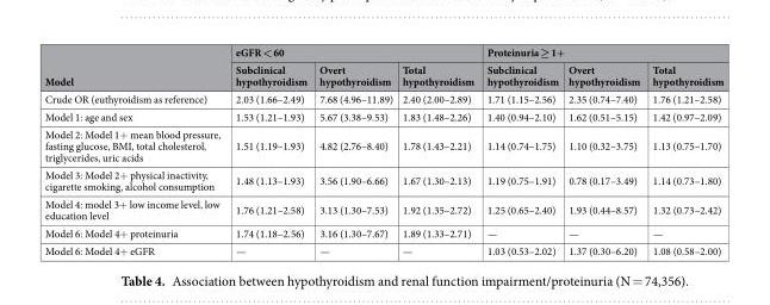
<table><thead><tr><td rowspan="2">Model</td><td colspan="3">eGFR &lt; 60</td><td colspan="3">Proteinuria ≥ 1+</td></tr><tr><td>Subclinical hypothyroidism</td><td>Overt hypothyroidism</td><td>Total hypothyroidism</td><td>Subclinical hypothyroidism</td><td>Overt hypothyroidism</td><td>Total hypothyroidism</td></tr></thead><tbody><tr><td>Crude OR (euthyroidism as reference)</td><td>2.03 (1.66–2.49)</td><td>7.68 (4.96–11.89)</td><td>2.40 (2.00–2.89)</td><td>1.71 (1.15–2.56)</td><td>2.35 (0.74–7.40)</td><td>1.76 (1.21–2.58)</td></tr><tr><td>Model 1: age and sex</td><td>1.53 (1.21–1.93)</td><td>5.67 (3.38–9.53)</td><td>1.83 (1.48–2.26)</td><td>1.40 (0.94–2.10)</td><td>1.62 (0.51–5.15)</td><td>1.42 (0.97–2.09)</td></tr><tr><td>Model 2: Model 1+ mean blood pressure, fasting glucose, BMI, total cholesterol, triglycerides, uric acids</td><td>1.51 (1.19–1.93)</td><td>4.82 (2.76–8.40)</td><td>1.78 (1.43–2.21)</td><td>1.14 (0.74–1.75)</td><td>1.10 (0.32–3.75)</td><td>1.13 (0.75–1.70)</td></tr><tr><td>Model 3: Model 2+ physical inactivity, cigarette smoking, alcohol consumption</td><td>1.48 (1.13–1.93)</td><td>3.56 (1.90–6.66)</td><td>1.67 (1.30–2.13)</td><td>1.19 (0.75–1.91)</td><td>0.78 (0.17–3.49)</td><td>1.14 (0.73–1.80)</td></tr><tr><td>Model 4: model 3+ low income level, low education level</td><td>1.76 (1.21–2.58)</td><td>3.13 (1.30–7.53)</td><td>1.92 (1.35–2.72)</td><td>1.25 (0.65–2.40)</td><td>1.93 (0.44–8.57)</td><td>1.32 (0.73–2.42)</td></tr><tr><td>Model 6: Model 4+ proteinuria</td><td>1.74 (1.18–2.56)</td><td>3.16 (1.30–7.67)</td><td>1.89 (1.33–2.71)</td><td>—</td><td>—</td><td>—</td></tr><tr><td>Model 6: Model 4+ eGFR</td><td>—</td><td>—</td><td>—</td><td>1.03 (0.53–2.02)</td><td>1.37 (0.30–6.20)</td><td>1.08 (0.58–2.00)</td></tr></tbody></table>